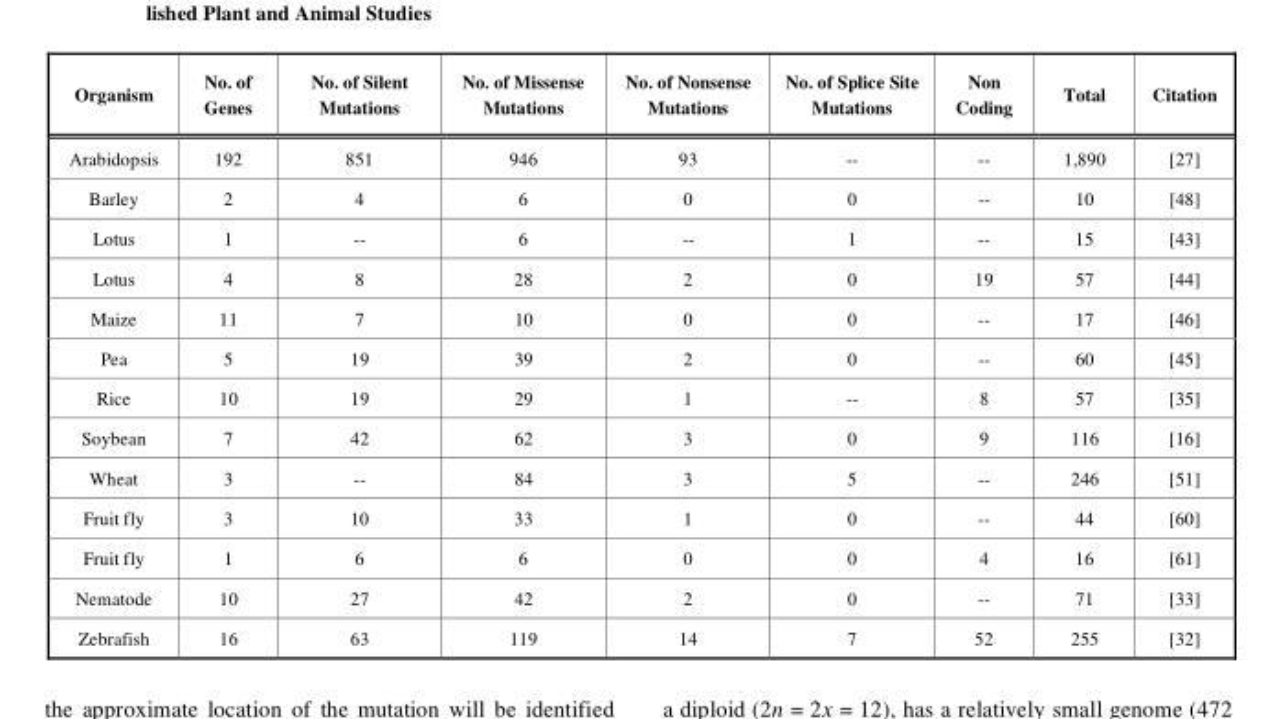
<table><thead><tr><td>Organism</td><td>No. of Genes</td><td>No. of Silent Mutations</td><td>No. of Missense Mutations</td><td>No. of Nonsense Mutations</td><td>No. of Splice Site Mutations</td><td>Non Coding</td><td>Total</td><td>Citation</td></tr></thead><tbody><tr><td>Arabidopsis</td><td>192</td><td>851</td><td>946</td><td>93</td><td>--</td><td>--</td><td>1,890</td><td>[27]</td></tr><tr><td>Barley</td><td>2</td><td>4</td><td>6</td><td>0</td><td>0</td><td>--</td><td>10</td><td>[48]</td></tr><tr><td>Lotus</td><td>1</td><td>--</td><td>6</td><td>--</td><td>1</td><td>--</td><td>15</td><td>[43]</td></tr><tr><td>Lotus</td><td>4</td><td>8</td><td>28</td><td>2</td><td>0</td><td>19</td><td>57</td><td>[44]</td></tr><tr><td>Maize</td><td>11</td><td>7</td><td>10</td><td>0</td><td>0</td><td>--</td><td>17</td><td>[46]</td></tr><tr><td>Pea</td><td>5</td><td>19</td><td>39</td><td>2</td><td>0</td><td>--</td><td>60</td><td>[45]</td></tr><tr><td>Rice</td><td>10</td><td>19</td><td>29</td><td>1</td><td>--</td><td>8</td><td>57</td><td>[35]</td></tr><tr><td>Soybean</td><td>7</td><td>42</td><td>62</td><td>3</td><td>0</td><td>9</td><td>116</td><td>[16]</td></tr><tr><td>Wheat</td><td>3</td><td>--</td><td>84</td><td>3</td><td>5</td><td>--</td><td>246</td><td>[51]</td></tr><tr><td>Fruit fly</td><td>3</td><td>10</td><td>33</td><td>1</td><td>0</td><td>--</td><td>44</td><td>[60]</td></tr><tr><td>Fruit fly</td><td>1</td><td>6</td><td>6</td><td>0</td><td>0</td><td>4</td><td>16</td><td>[61]</td></tr><tr><td>Nematode</td><td>10</td><td>27</td><td>42</td><td>2</td><td>0</td><td>--</td><td>71</td><td>[33]</td></tr><tr><td>Zebrafish</td><td>16</td><td>63</td><td>119</td><td>14</td><td>7</td><td>52</td><td>255</td><td>[32]</td></tr></tbody></table>